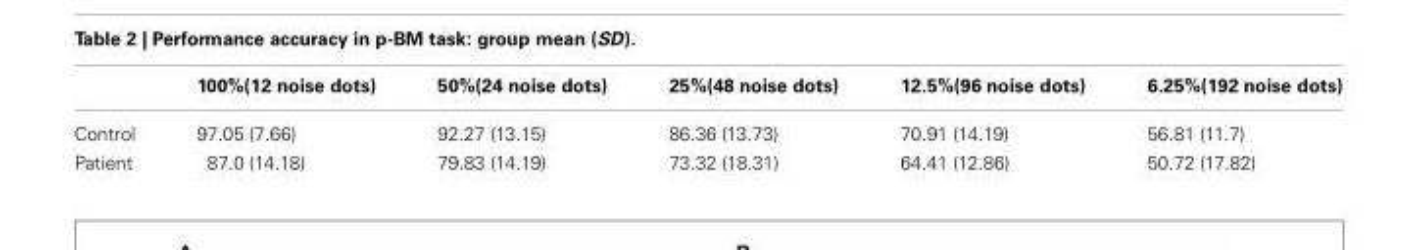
<table><thead><tr><td></td><td>100%(12 noise dots)</td><td>50%(24 noise dots)</td><td>25%(48 noise dots)</td><td>12.5%(96 noise dots)</td><td>6.25%(192 noise dots)</td></tr></thead><tbody><tr><td>Control</td><td>97.05 (7.66)</td><td>92.27 (13.15)</td><td>86.36 (13.73)</td><td>70.91 (14.19)</td><td>56.81 (11.7)</td></tr><tr><td>Patient</td><td>87.0 (14.18)</td><td>79.83 (14.19)</td><td>73.32 (18.31)</td><td>64.41 (12.86)</td><td>50.72 (17.82)</td></tr></tbody></table>